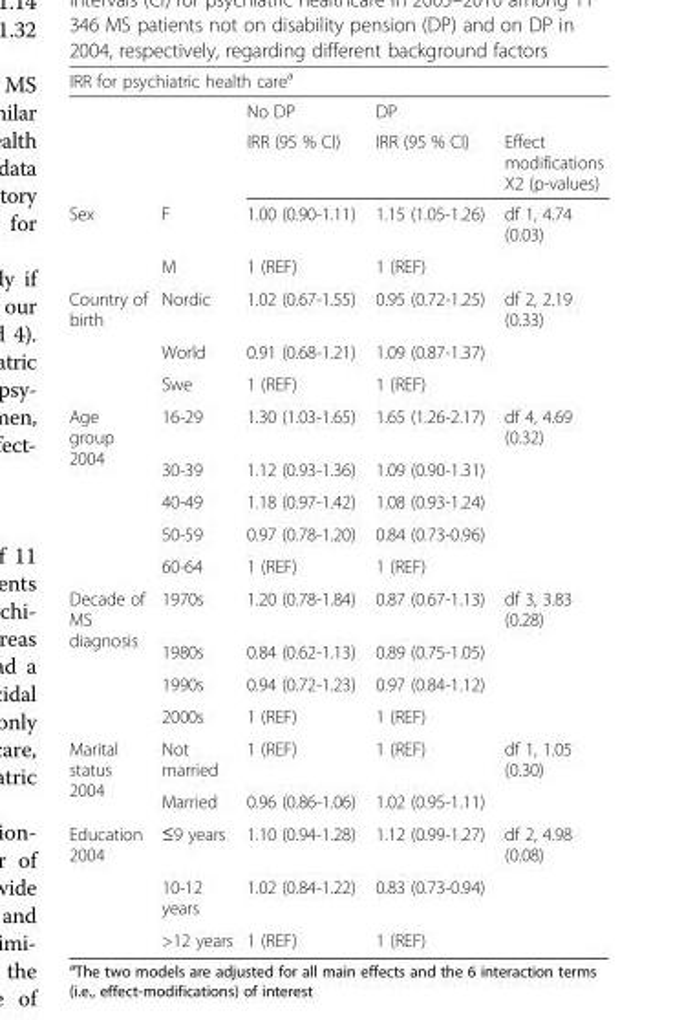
<table><thead><tr><td colspan="5">IRR for psychiatric health care<sup>a</sup></td></tr><tr><td rowspan="2"></td><td rowspan="2"></td><td rowspan="2">No DP IRR (95 % CI)</td><td rowspan="2">DP IRR (95 % CI)</td><td rowspan="2">Effect modifications X2 (p-values)</td></tr><tr></tr></thead><tbody><tr><td rowspan="2">Sex</td><td>F</td><td>1.00 (0.90-1.11)</td><td>1.15 (1.05-1.26)</td><td>df 1, 4.74 (0.03)</td></tr><tr><td>M</td><td>1 (REF)</td><td>1 (REF)</td><td></td></tr><tr><td rowspan="3">Country of birth</td><td>Nordic</td><td>1.02 (0.67-1.55)</td><td>0.95 (0.72-1.25)</td><td>df 2, 2.19 (0.33)</td></tr><tr><td>World</td><td>0.91 (0.68-1.21)</td><td>1.09 (0.87-1.37)</td><td></td></tr><tr><td>Swe</td><td>1 (REF)</td><td>1 (REF)</td><td></td></tr><tr><td rowspan="5">Age group 2004</td><td>16-29</td><td>1.30 (1.03-1.65)</td><td>1.65 (1.26-2.17)</td><td>df 4, 4.69 (0.32)</td></tr><tr><td>30-39</td><td>1.12 (0.93-1.36)</td><td>1.09 (0.90-1.31)</td><td></td></tr><tr><td>40-49</td><td>1.18 (0.97-1.42)</td><td>1.08 (0.93-1.24)</td><td></td></tr><tr><td>50-59</td><td>0.97 (0.78-1.20)</td><td>0.84 (0.73-0.96)</td><td></td></tr><tr><td>60-64</td><td>1 (REF)</td><td>1 (REF)</td><td></td></tr><tr><td rowspan="4">Decade of MS diagnosis</td><td>1970s</td><td>1.20 (0.78-1.84)</td><td>0.87 (0.67-1.13)</td><td>df 3, 3.83 (0.28)</td></tr><tr><td>1980s</td><td>0.84 (0.62-1.13)</td><td>0.89 (0.75-1.05)</td><td></td></tr><tr><td>1990s</td><td>0.94 (0.72-1.23)</td><td>0.97 (0.84-1.12)</td><td></td></tr><tr><td>2000s</td><td>1 (REF)</td><td>1 (REF)</td><td></td></tr><tr><td rowspan="2">Marital status 2004</td><td>Not married</td><td>1 (REF)</td><td>1 (REF)</td><td>df 1, 1.05 (0.30)</td></tr><tr><td>Married</td><td>0.96 (0.86-1.06)</td><td>1.02 (0.95-1.11)</td><td></td></tr><tr><td rowspan="3">Education 2004</td><td>≤9 years</td><td>1.10 (0.94-1.28)</td><td>1.12 (0.99-1.27)</td><td>df 2, 4.98 (0.08)</td></tr><tr><td>10-12 years</td><td>1.02 (0.84-1.22)</td><td>0.83 (0.73-0.94)</td><td></td></tr><tr><td>&gt;12 years</td><td>1 (REF)</td><td>1 (REF)</td><td></td></tr></tbody></table>